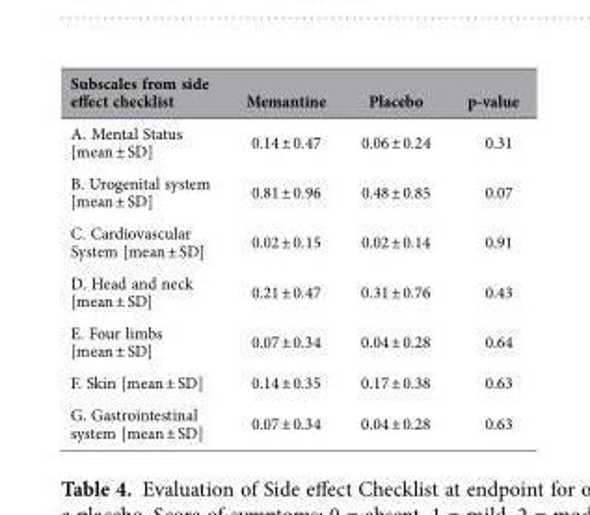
<table><thead><tr><td>Subscales from side effect checklist</td><td>Memantine</td><td>Placebo</td><td>p-value</td></tr></thead><tbody><tr><td>A. Mental Status [mean ± SD]</td><td>0.14 ± 0.47</td><td>0.06 ± 0.24</td><td>0.31</td></tr><tr><td>B. Urogenital system [mean ± SD]</td><td>0.81 ± 0.96</td><td>0.48 ± 0.85</td><td>0.07</td></tr><tr><td>C. Cardiovascular System [mean ± SD]</td><td>0.02 ± 0.15</td><td>0.02 ± 0.14</td><td>0.91</td></tr><tr><td>D. Head and neck [mean ± SD]</td><td>0.21 ± 0.47</td><td>0.31 ± 0.76</td><td>0.43</td></tr><tr><td>E. Four limbs [mean ± SD]</td><td>0.07 ± 0.34</td><td>0.04 ± 0.28</td><td>0.64</td></tr><tr><td>F. Skin [mean ± SD]</td><td>0.14 ± 0.35</td><td>0.17 ± 0.38</td><td>0.63</td></tr><tr><td>G. Gastrointestinal system [mean ± SD]</td><td>0.07 ± 0.34</td><td>0.04 ± 0.28</td><td>0.63</td></tr></tbody></table>